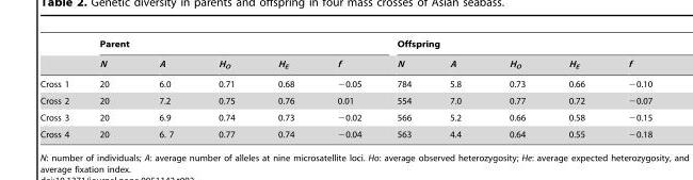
<table><thead><tr><td rowspan="2"></td><td colspan="5">Parent</td><td colspan="5">Offspring</td></tr><tr><td>N</td><td>A</td><td>H<sub>O</sub></td><td>H<sub>E</sub></td><td>f</td><td>N</td><td>A</td><td>H<sub>O</sub></td><td>H<sub>E</sub></td><td>f</td></tr></thead><tbody><tr><td>Cross 1</td><td>20</td><td>6.0</td><td>0.71</td><td>0.68</td><td>−0.05</td><td>784</td><td>5.8</td><td>0.73</td><td>0.66</td><td>−0.10</td></tr><tr><td>Cross 2</td><td>20</td><td>7.2</td><td>0.75</td><td>0.76</td><td>0.01</td><td>554</td><td>7.0</td><td>0.77</td><td>0.72</td><td>−0.07</td></tr><tr><td>Cross 3</td><td>20</td><td>6.9</td><td>0.74</td><td>0.73</td><td>−0.02</td><td>566</td><td>5.2</td><td>0.66</td><td>0.58</td><td>−0.15</td></tr><tr><td>Cross 4</td><td>20</td><td>6. 7</td><td>0.77</td><td>0.74</td><td>−0.04</td><td>563</td><td>4.4</td><td>0.64</td><td>0.55</td><td>−0.18</td></tr></tbody></table>